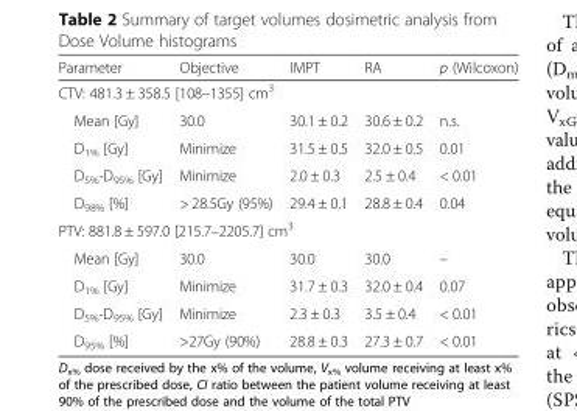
<table><thead><tr><td>Parameter</td><td>Objective</td><td>IMPT</td><td>RA</td><td>p (Wilcoxon)</td></tr></thead><tbody><tr><td colspan="5">CTV: 481.3 ± 358.5 [108–1355] cm<sup>3</sup></td></tr><tr><td>Mean [Gy]</td><td>30.0</td><td>30.1 ± 0.2</td><td>30.6 ± 0.2</td><td>n.s.</td></tr><tr><td>D<sub>1%</sub> [Gy]</td><td>Minimize</td><td>31.5 ± 0.5</td><td>32.0 ± 0.5</td><td>0.01</td></tr><tr><td>D<sub>5%</sub>-D<sub>95%</sub> [Gy]</td><td>Minimize</td><td>2.0 ± 0.3</td><td>2.5 ± 0.4</td><td>&lt; 0.01</td></tr><tr><td>D<sub>98%</sub> [%]</td><td>&gt; 28.5Gy (95%)</td><td>29.4 ± 0.1</td><td>28.8 ± 0.4</td><td>0.04</td></tr><tr><td colspan="5">PTV: 881.8 ± 597.0 [215.7–2205.7] cm<sup>3</sup></td></tr><tr><td>Mean [Gy]</td><td>30.0</td><td>30.0</td><td>30.0</td><td>–</td></tr><tr><td>D<sub>1%</sub> [Gy]</td><td>Minimize</td><td>31.7 ± 0.3</td><td>32.0 ± 0.4</td><td>0.07</td></tr><tr><td>D<sub>5%</sub>-D<sub>95%</sub> [Gy]</td><td>Minimize</td><td>2.3 ± 0.3</td><td>3.5 ± 0.4</td><td>&lt; 0.01</td></tr><tr><td>D<sub>95%</sub> [%]</td><td>&gt;27Gy (90%)</td><td>28.8 ± 0.3</td><td>27.3 ± 0.7</td><td>&lt; 0.01</td></tr></tbody></table>